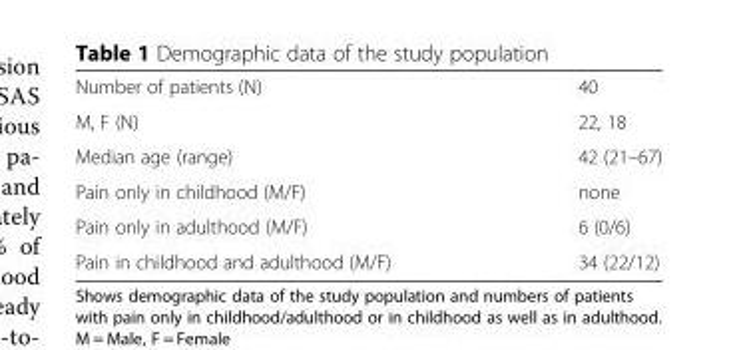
<table><tbody><tr><td>Number of patients (N)</td><td>40</td></tr><tr><td>M, F (N)</td><td>22, 18</td></tr><tr><td>Median age (range)</td><td>42 (21–67)</td></tr><tr><td>Pain only in childhood (M/F)</td><td>none</td></tr><tr><td>Pain only in adulthood (M/F)</td><td>6 (0/6)</td></tr><tr><td>Pain in childhood and adulthood (M/F)</td><td>34 (22/12)</td></tr></tbody></table>